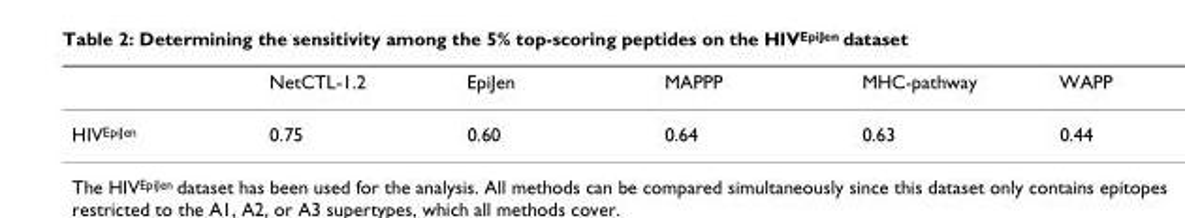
<table><thead><tr><td></td><td>NetCTL-1.2</td><td>EpiJen</td><td>MAPPP</td><td>MHC-pathway</td><td>WAPP</td></tr></thead><tbody><tr><td>HIV<sup>EpiJen</sup></td><td>0.75</td><td>0.60</td><td>0.64</td><td>0.63</td><td>0.44</td></tr></tbody></table>